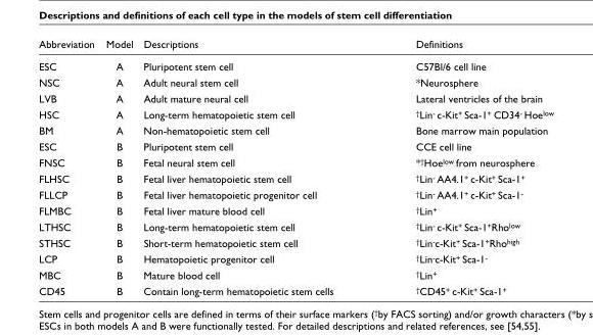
<table><thead><tr><td>Abbreviation</td><td>Model</td><td>Descriptions</td><td>Definitions</td></tr></thead><tbody><tr><td>ESC</td><td>A</td><td>Pluripotent stem cell</td><td>C57Bl/6 cell line</td></tr><tr><td>NSC</td><td>A</td><td>Adult neural stem cell</td><td>*Neurosphere</td></tr><tr><td>LVB</td><td>A</td><td>Adult mature neural cell</td><td>Lateral ventricles of the brain</td></tr><tr><td>HSC</td><td>A</td><td>Long-term hematopoietic stem cell</td><td><sup>†</sup>Lin<sup>-</sup> c-Kit<sup>+</sup> Sca-1<sup>+</sup> CD34<sup>-</sup> Hoe<sup>low</sup></td></tr><tr><td>BM</td><td>A</td><td>Non-hematopoietic stem cell</td><td>Bone marrow main population</td></tr><tr><td>ESC</td><td>B</td><td>Pluripotent stem cell</td><td>CCE cell line</td></tr><tr><td>FNSC</td><td>B</td><td>Fetal neural stem cell</td><td>*<sup>†</sup>Hoe<sup>low</sup> from neurosphere</td></tr><tr><td>FLHSC</td><td>B</td><td>Fetal liver hematopoietic stem cell</td><td><sup>†</sup>Lin<sup>-</sup> AA4.1<sup>+</sup> c-Kit<sup>+</sup> Sca-1<sup>+</sup></td></tr><tr><td>FLLCP</td><td>B</td><td>Fetal liver hematopoietic progenitor cell</td><td><sup>†</sup>Lin<sup>-</sup> AA4.1<sup>+</sup> c-Kit<sup>+</sup> Sca-1<sup>-</sup></td></tr><tr><td>FLMBC</td><td>B</td><td>Fetal liver mature blood cell</td><td><sup>†</sup>Lin<sup>+</sup></td></tr><tr><td>LTHSC</td><td>B</td><td>Long-term hematopoietic stem cell</td><td><sup>†</sup>Lin<sup>-</sup> c-Kit<sup>+</sup> Sca-1<sup>+</sup>Rho<sup>low</sup></td></tr><tr><td>STHSC</td><td>B</td><td>Short-term hematopoietic stem cell</td><td><sup>†</sup>Lin<sup>-</sup>c-Kit<sup>+</sup> Sca-1<sup>+</sup>Rho<sup>high</sup></td></tr><tr><td>LCP</td><td>B</td><td>Hematopoietic progenitor cell</td><td><sup>†</sup>Lin<sup>-</sup>c-Kit<sup>+</sup> Sca-1<sup>-</sup></td></tr><tr><td>MBC</td><td>B</td><td>Mature blood cell</td><td><sup>†</sup>Lin<sup>+</sup></td></tr><tr><td>CD45</td><td>B</td><td>Contain long-term hematopoietic stem cells</td><td><sup>†</sup>CD45<sup>+</sup> c-Kit<sup>+</sup> Sca-1<sup>+</sup></td></tr></tbody></table>